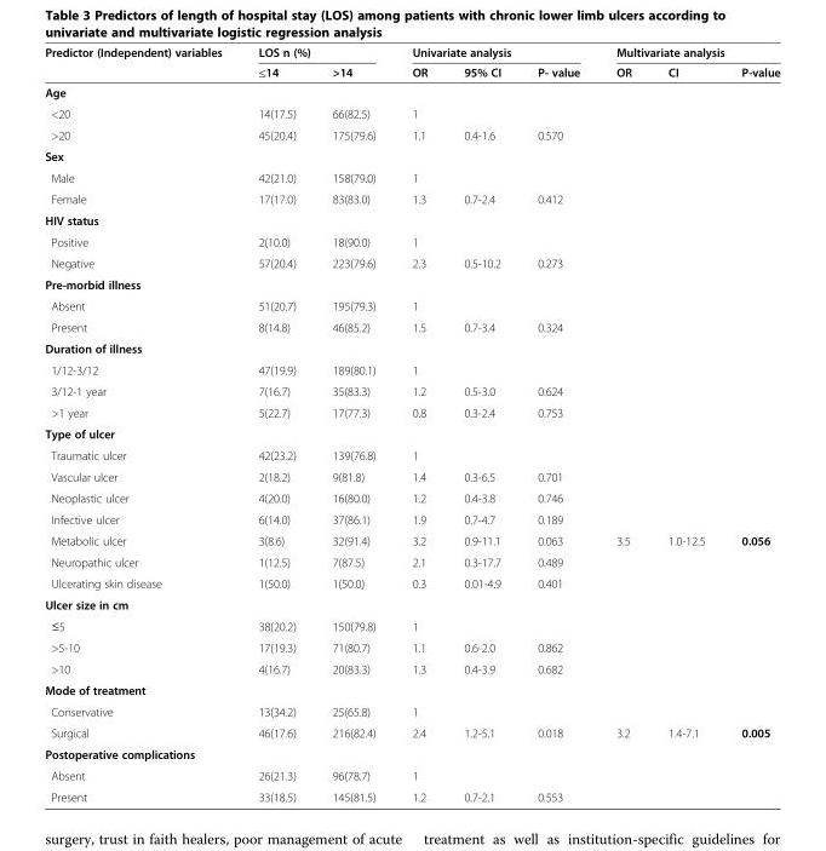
<table><thead><tr><td rowspan="2">Predictor (Independent) variables</td><td colspan="2">LOS n (%)</td><td colspan="3">Univariate analysis</td><td colspan="3">Multivariate analysis</td></tr><tr><td>≤14</td><td>&gt;14</td><td>OR</td><td>95% CI</td><td>P- value</td><td>OR</td><td>CI</td><td>P-value</td></tr></thead><tbody><tr><td colspan="9">Age</td></tr><tr><td>&lt;20</td><td>14(17.5)</td><td>66(82.5)</td><td>1</td><td></td><td></td><td></td><td></td><td></td></tr><tr><td>&gt;20</td><td>45(20.4)</td><td>175(79.6)</td><td>1.1</td><td>0.4-1.6</td><td>0.570</td><td></td><td></td><td></td></tr><tr><td colspan="9">Sex</td></tr><tr><td>Male</td><td>42(21.0)</td><td>158(79.0)</td><td>1</td><td></td><td></td><td></td><td></td><td></td></tr><tr><td>Female</td><td>17(17.0)</td><td>83(83.0)</td><td>1.3</td><td>0.7-2.4</td><td>0.412</td><td></td><td></td><td></td></tr><tr><td colspan="9">HIV status</td></tr><tr><td>Positive</td><td>2(10.0)</td><td>18(90.0)</td><td>1</td><td></td><td></td><td></td><td></td><td></td></tr><tr><td>Negative</td><td>57(20.4)</td><td>223(79.6)</td><td>2.3</td><td>0.5-10.2</td><td>0.273</td><td></td><td></td><td></td></tr><tr><td colspan="9">Pre-morbid illness</td></tr><tr><td>Absent</td><td>51(20.7)</td><td>195(79.3)</td><td>1</td><td></td><td></td><td></td><td></td><td></td></tr><tr><td>Present</td><td>8(14.8)</td><td>46(85.2)</td><td>1.5</td><td>0.7-3.4</td><td>0.324</td><td></td><td></td><td></td></tr><tr><td colspan="9">Duration of illness</td></tr><tr><td>1/12-3/12</td><td>47(19.9)</td><td>189(80.1)</td><td>1</td><td></td><td></td><td></td><td></td><td></td></tr><tr><td>3/12-1 year</td><td>7(16.7)</td><td>35(83.3)</td><td>1.2</td><td>0.5-3.0</td><td>0.624</td><td></td><td></td><td></td></tr><tr><td>&gt;1 year</td><td>5(22.7)</td><td>17(77.3)</td><td>0.8</td><td>0.3-2.4</td><td>0.753</td><td></td><td></td><td></td></tr><tr><td colspan="9">Type of ulcer</td></tr><tr><td>Traumatic ulcer</td><td>42(23.2)</td><td>139(76.8)</td><td>1</td><td></td><td></td><td></td><td></td><td></td></tr><tr><td>Vascular ulcer</td><td>2(18.2)</td><td>9(81.8)</td><td>1.4</td><td>0.3-6.5</td><td>0.701</td><td></td><td></td><td></td></tr><tr><td>Neoplastic ulcer</td><td>4(20.0)</td><td>16(80.0)</td><td>1.2</td><td>0.4-3.8</td><td>0.746</td><td></td><td></td><td></td></tr><tr><td>Infective ulcer</td><td>6(14.0)</td><td>37(86.1)</td><td>1.9</td><td>0.7-4.7</td><td>0.189</td><td></td><td></td><td></td></tr><tr><td>Metabolic ulcer</td><td>3(8.6)</td><td>32(91.4)</td><td>3.2</td><td>0.9-11.1</td><td>0.063</td><td>3.5</td><td>1.0-12.5</td><td>0.056</td></tr><tr><td>Neuropathic ulcer</td><td>1(12.5)</td><td>7(87.5)</td><td>2.1</td><td>0.3-17.7</td><td>0.489</td><td></td><td></td><td></td></tr><tr><td>Ulcerating skin disease</td><td>1(50.0)</td><td>1(50.0)</td><td>0.3</td><td>0.01-4.9</td><td>0.401</td><td></td><td></td><td></td></tr><tr><td colspan="9">Ulcer size in cm</td></tr><tr><td>≤5</td><td>38(20.2)</td><td>150(79.8)</td><td>1</td><td></td><td></td><td></td><td></td><td></td></tr><tr><td>&gt;5-10</td><td>17(19.3)</td><td>71(80.7)</td><td>1.1</td><td>0.6-2.0</td><td>0.862</td><td></td><td></td><td></td></tr><tr><td>&gt;10</td><td>4(16.7)</td><td>20(83.3)</td><td>1.3</td><td>0.4-3.9</td><td>0.682</td><td></td><td></td><td></td></tr><tr><td colspan="9">Mode of treatment</td></tr><tr><td>Conservative</td><td>13(34.2)</td><td>25(65.8)</td><td>1</td><td></td><td></td><td></td><td></td><td></td></tr><tr><td>Surgical</td><td>46(17.6)</td><td>216(82.4)</td><td>2.4</td><td>1.2-5.1</td><td>0.018</td><td>3.2</td><td>1.4-7.1</td><td>0.005</td></tr><tr><td colspan="9">Postoperative complications</td></tr><tr><td>Absent</td><td>26(21.3)</td><td>96(78.7)</td><td>1</td><td></td><td></td><td></td><td></td><td></td></tr><tr><td>Present</td><td>33(18.5)</td><td>145(81.5)</td><td>1.2</td><td>0.7-2.1</td><td>0.553</td><td></td><td></td><td></td></tr></tbody></table>